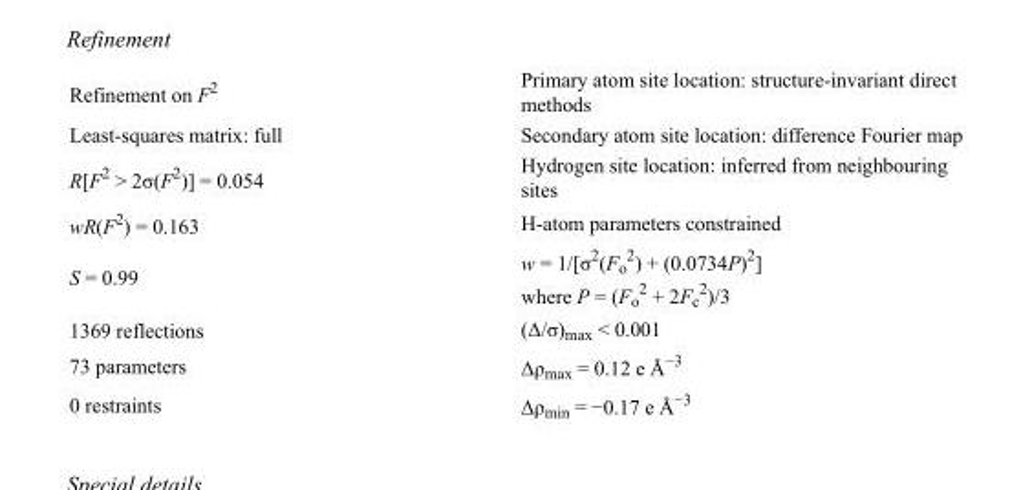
<table><tbody><tr><td>Refinement on F<sup>2</sup></td><td>Primary atom site location: structure-invariant direct methods</td></tr><tr><td>Least-squares matrix: full</td><td>Secondary atom site location: difference Fourier map</td></tr><tr><td>R[F<sup>2</sup> &gt; 2σ(F<sup>2</sup>)] = 0.054</td><td>Hydrogen site location: inferred from neighbouring sites</td></tr><tr><td>wR(F<sup>2</sup>) = 0.163</td><td>H-atom parameters constrained</td></tr><tr><td>S = 0.99</td><td>w = 1/[σ<sup>2</sup>(F<sub>o</sub> <sup>2</sup>) + (0.0734P)<sup>2</sup>] where P = (F<sub>o</sub> <sup>2</sup> + 2F<sub>c</sub> <sup>2</sup>)/3</td></tr><tr><td>1369 reflections</td><td>(Δ/σ)<sub>max</sub> &lt; 0.001</td></tr><tr><td>73 parameters</td><td>Δρ<sub>max</sub> = 0.12 e Å<sup>−3</sup></td></tr><tr><td>0 restraints</td><td>Δρ<sub>min</sub> = −0.17 e Å<sup>−3</sup></td></tr></tbody></table>